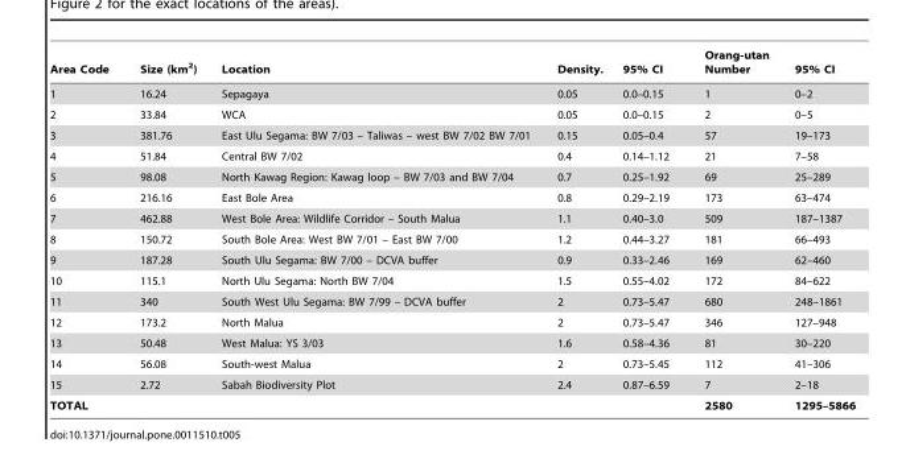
<table><thead><tr><td>Area Code</td><td>Size (km<sup>2</sup>)</td><td>Location</td><td>Density.</td><td>95% CI</td><td>Orang-utan Number</td><td>95% CI</td></tr></thead><tbody><tr><td>1</td><td>16.24</td><td>Sepagaya</td><td>0.05</td><td>0.0–0.15</td><td>1</td><td>0–2</td></tr><tr><td>2</td><td>33.84</td><td>WCA</td><td>0.05</td><td>0.0–0.15</td><td>2</td><td>0–5</td></tr><tr><td>3</td><td>381.76</td><td>East Ulu Segama: BW 7/03 – Taliwas – west BW 7/02 BW 7/01</td><td>0.15</td><td>0.05–0.4</td><td>57</td><td>19–173</td></tr><tr><td>4</td><td>51.84</td><td>Central BW 7/02</td><td>0.4</td><td>0.14–1.12</td><td>21</td><td>7–58</td></tr><tr><td>5</td><td>98.08</td><td>North Kawag Region: Kawag loop – BW 7/03 and BW 7/04</td><td>0.7</td><td>0.25–1.92</td><td>69</td><td>25–289</td></tr><tr><td>6</td><td>216.16</td><td>East Bole Area</td><td>0.8</td><td>0.29–2.19</td><td>173</td><td>63–474</td></tr><tr><td>7</td><td>462.88</td><td>West Bole Area: Wildlife Corridor – South Malua</td><td>1.1</td><td>0.40–3.0</td><td>509</td><td>187–1387</td></tr><tr><td>8</td><td>150.72</td><td>South Bole Area: West BW 7/01 – East BW 7/00</td><td>1.2</td><td>0.44–3.27</td><td>181</td><td>66–493</td></tr><tr><td>9</td><td>187.28</td><td>South Ulu Segama: BW 7/00 – DCVA buffer</td><td>0.9</td><td>0.33–2.46</td><td>169</td><td>62–460</td></tr><tr><td>10</td><td>115.1</td><td>North Ulu Segama: North BW 7/04</td><td>1.5</td><td>0.55–4.02</td><td>172</td><td>84–622</td></tr><tr><td>11</td><td>340</td><td>South West Ulu Segama: BW 7/99 – DCVA buffer</td><td>2</td><td>0.73–5.47</td><td>680</td><td>248–1861</td></tr><tr><td>12</td><td>173.2</td><td>North Malua</td><td>2</td><td>0.73–5.47</td><td>346</td><td>127–948</td></tr><tr><td>13</td><td>50.48</td><td>West Malua: YS 3/03</td><td>1.6</td><td>0.58–4.36</td><td>81</td><td>30–220</td></tr><tr><td>14</td><td>56.08</td><td>South-west Malua</td><td>2</td><td>0.73–5.45</td><td>112</td><td>41–306</td></tr><tr><td>15</td><td>2.72</td><td>Sabah Biodiversity Plot</td><td>2.4</td><td>0.87–6.59</td><td>7</td><td>2–18</td></tr><tr><td>TOTAL</td><td></td><td></td><td></td><td></td><td>2580</td><td>1295–5866</td></tr></tbody></table>